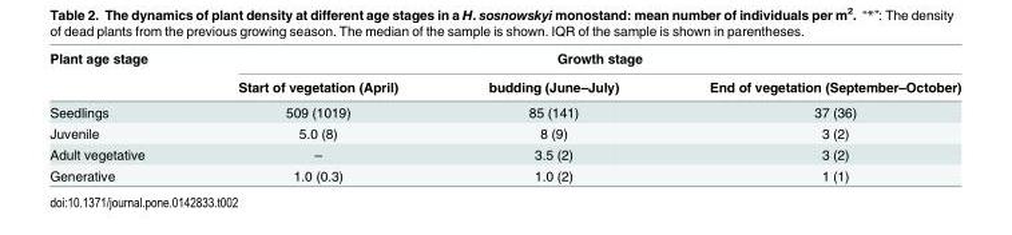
<table><thead><tr><td rowspan="2">Plant age stage</td><td colspan="3">Growth stage</td></tr><tr><td>Start of vegetation (April)</td><td>budding (June–July)</td><td>End of vegetation (September–October)</td></tr></thead><tbody><tr><td>Seedlings</td><td>509 (1019)</td><td>85 (141)</td><td>37 (36)</td></tr><tr><td>Juvenile</td><td>5.0 (8)</td><td>8 (9)</td><td>3 (2)</td></tr><tr><td>Adult vegetative</td><td>–</td><td>3.5 (2)</td><td>3 (2)</td></tr><tr><td>Generative</td><td>1.0 (0.3)</td><td>1.0 (2)</td><td>1 (1)</td></tr></tbody></table>